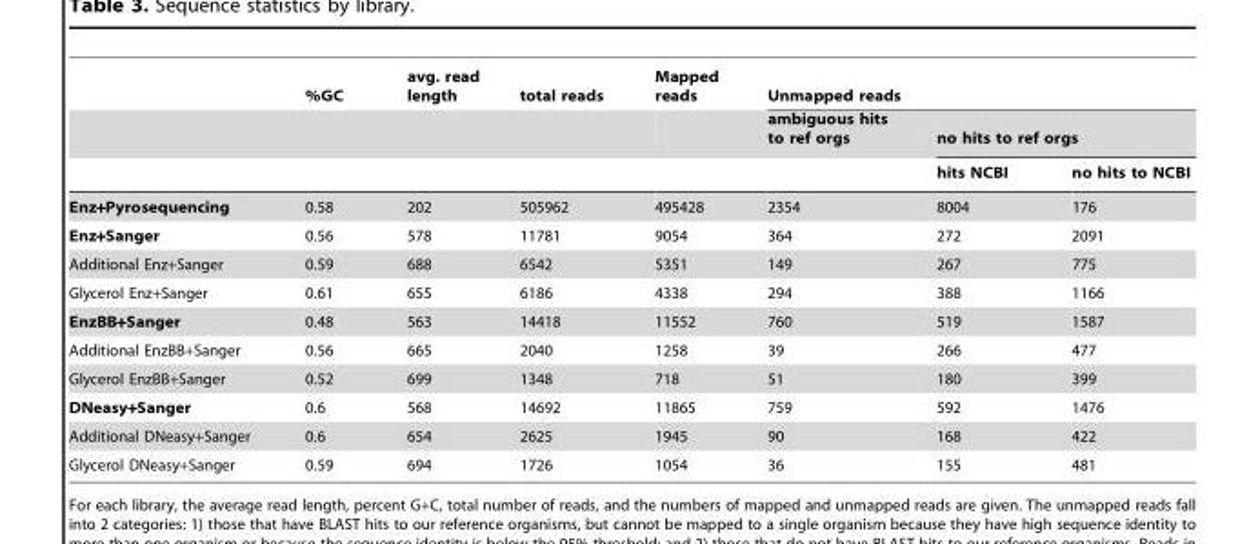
<table><thead><tr><td rowspan="3"></td><td rowspan="3">%GC</td><td rowspan="3">avg. read length</td><td rowspan="3">total reads</td><td rowspan="3">Mapped reads</td><td colspan="3">Unmapped reads</td></tr><tr><td rowspan="2">ambiguous hits to ref orgs</td><td colspan="2">no hits to ref orgs</td></tr><tr><td>hits NCBI</td><td>no hits to NCBI</td></tr></thead><tbody><tr><td>Enz+Pyrosequencing</td><td>0.58</td><td>202</td><td>505962</td><td>495428</td><td>2354</td><td>8004</td><td>176</td></tr><tr><td>Enz+Sanger</td><td>0.56</td><td>578</td><td>11781</td><td>9054</td><td>364</td><td>272</td><td>2091</td></tr><tr><td>Additional Enz+Sanger</td><td>0.59</td><td>688</td><td>6542</td><td>5351</td><td>149</td><td>267</td><td>775</td></tr><tr><td>Glycerol Enz+Sanger</td><td>0.61</td><td>655</td><td>6186</td><td>4338</td><td>294</td><td>388</td><td>1166</td></tr><tr><td>EnzBB+Sanger</td><td>0.48</td><td>563</td><td>14418</td><td>11552</td><td>760</td><td>519</td><td>1587</td></tr><tr><td>Additional EnzBB+Sanger</td><td>0.56</td><td>665</td><td>2040</td><td>1258</td><td>39</td><td>266</td><td>477</td></tr><tr><td>Glycerol EnzBB+Sanger</td><td>0.52</td><td>699</td><td>1348</td><td>718</td><td>51</td><td>180</td><td>399</td></tr><tr><td>DNeasy+Sanger</td><td>0.6</td><td>568</td><td>14692</td><td>11865</td><td>759</td><td>592</td><td>1476</td></tr><tr><td>Additional DNeasy+Sanger</td><td>0.6</td><td>654</td><td>2625</td><td>1945</td><td>90</td><td>168</td><td>422</td></tr><tr><td>Glycerol DNeasy+Sanger</td><td>0.59</td><td>694</td><td>1726</td><td>1054</td><td>36</td><td>155</td><td>481</td></tr></tbody></table>